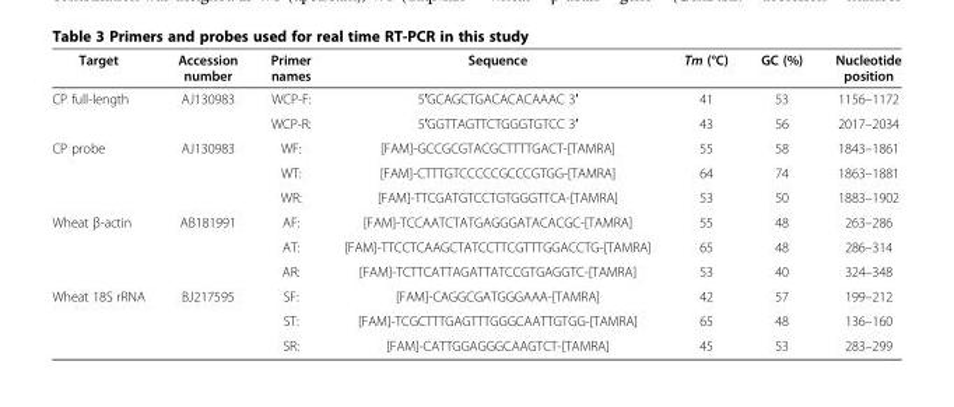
<table><thead><tr><td>Target</td><td>Accession number</td><td>Primer names</td><td>Sequence</td><td>Tm (°C)</td><td>GC (%)</td><td>Nucleotide position</td></tr></thead><tbody><tr><td rowspan="2">CP full-length</td><td rowspan="2">AJ130983</td><td>WCP-F:</td><td>5′GCAGCTGACACACAAAC 3′</td><td>41</td><td>53</td><td>1156–1172</td></tr><tr><td>WCP-R:</td><td>5′GGTTAGTTCTGGGTGTCC 3′</td><td>43</td><td>56</td><td>2017–2034</td></tr><tr><td rowspan="3">CP probe</td><td rowspan="3">AJ130983</td><td>WF:</td><td>[FAM]-GCCGCGTACGCTTTTGACT-[TAMRA]</td><td>55</td><td>58</td><td>1843–1861</td></tr><tr><td>WT:</td><td>[FAM]-CTTTGTCCCCCGCCCGTGG-[TAMRA]</td><td>64</td><td>74</td><td>1863–1881</td></tr><tr><td>WR:</td><td>[FAM]-TTCGATGTCCTGTGGGTTCA-[TAMRA]</td><td>53</td><td>50</td><td>1883–1902</td></tr><tr><td rowspan="3">Wheat β-actin</td><td rowspan="3">AB181991</td><td>AF:</td><td>[FAM]-TCCAATCTATGAGGGATACACGC-[TAMRA]</td><td>55</td><td>48</td><td>263–286</td></tr><tr><td>AT:</td><td>[FAM]-TTCCTCAAGCTATCCTTCGTTTGGACCTG-[TAMRA]</td><td>65</td><td>48</td><td>286–314</td></tr><tr><td>AR:</td><td>[FAM]-TCTTCATTAGATTATCCGTGAGGTC-[TAMRA]</td><td>53</td><td>40</td><td>324–348</td></tr><tr><td rowspan="3">Wheat 18S rRNA</td><td rowspan="3">BJ217595</td><td>SF:</td><td>[FAM]-CAGGCGATGGGAAA-[TAMRA]</td><td>42</td><td>57</td><td>199–212</td></tr><tr><td>ST:</td><td>[FAM]-TCGCTTTGAGTTTGGGCAATTGTGG-[TAMRA]</td><td>65</td><td>48</td><td>136–160</td></tr><tr><td>SR:</td><td>[FAM]-CATTGGAGGGCAAGTCT-[TAMRA]</td><td>45</td><td>53</td><td>283–299</td></tr></tbody></table>